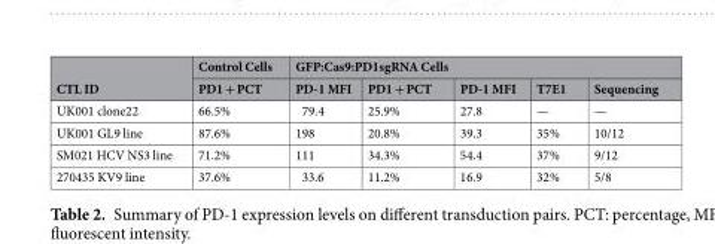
<table><thead><tr><td rowspan="2">CTL ID</td><td rowspan="2">Control Cells PD1 + PCT</td><td colspan="5">GFP:Cas9:PD1sgRNA Cells</td></tr><tr><td>PD-1 MFI</td><td>PD1 + PCT</td><td>PD-1 MFI</td><td>T7E1</td><td>Sequencing</td></tr></thead><tbody><tr><td>UK001 clone22</td><td>66.5%</td><td>79.4</td><td>25.9%</td><td>27.8</td><td>—</td><td>—</td></tr><tr><td>UK001 GL9 line</td><td>87.6%</td><td>198</td><td>20.8%</td><td>39.3</td><td>35%</td><td>10/12</td></tr><tr><td>SM021 HCV NS3 line</td><td>71.2%</td><td>111</td><td>34.3%</td><td>54.4</td><td>37%</td><td>9/12</td></tr><tr><td>270435 KV9 line</td><td>37.6%</td><td>33.6</td><td>11.2%</td><td>16.9</td><td>32%</td><td>5/8</td></tr></tbody></table>